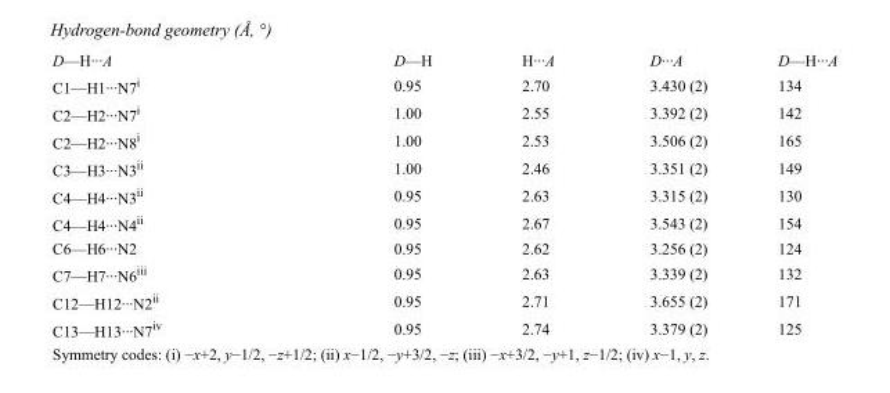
<table><tbody><tr><td>D—H···A</td><td>D—H</td><td>H···A</td><td>D···A</td><td>D—H···A</td></tr><tr><td>C1—H1···N7<sup>i</sup></td><td>0.95</td><td>2.70</td><td>3.430 (2)</td><td>134</td></tr><tr><td>C2—H2···N7<sup>i</sup></td><td>1.00</td><td>2.55</td><td>3.392 (2)</td><td>142</td></tr><tr><td>C2—H2···N8<sup>i</sup></td><td>1.00</td><td>2.53</td><td>3.506 (2)</td><td>165</td></tr><tr><td>C3—H3···N3<sup>ii</sup></td><td>1.00</td><td>2.46</td><td>3.351 (2)</td><td>149</td></tr><tr><td>C4—H4···N3<sup>ii</sup></td><td>0.95</td><td>2.63</td><td>3.315 (2)</td><td>130</td></tr><tr><td>C4—H4···N4<sup>ii</sup></td><td>0.95</td><td>2.67</td><td>3.543 (2)</td><td>154</td></tr><tr><td>C6—H6···N2</td><td>0.95</td><td>2.62</td><td>3.256 (2)</td><td>124</td></tr><tr><td>C7—H7···N6<sup>iii</sup></td><td>0.95</td><td>2.63</td><td>3.339 (2)</td><td>132</td></tr><tr><td>C12—H12···N2<sup>ii</sup></td><td>0.95</td><td>2.71</td><td>3.655 (2)</td><td>171</td></tr><tr><td>C13—H13···N7<sup>iv</sup></td><td>0.95</td><td>2.74</td><td>3.379 (2)</td><td>125</td></tr></tbody></table>